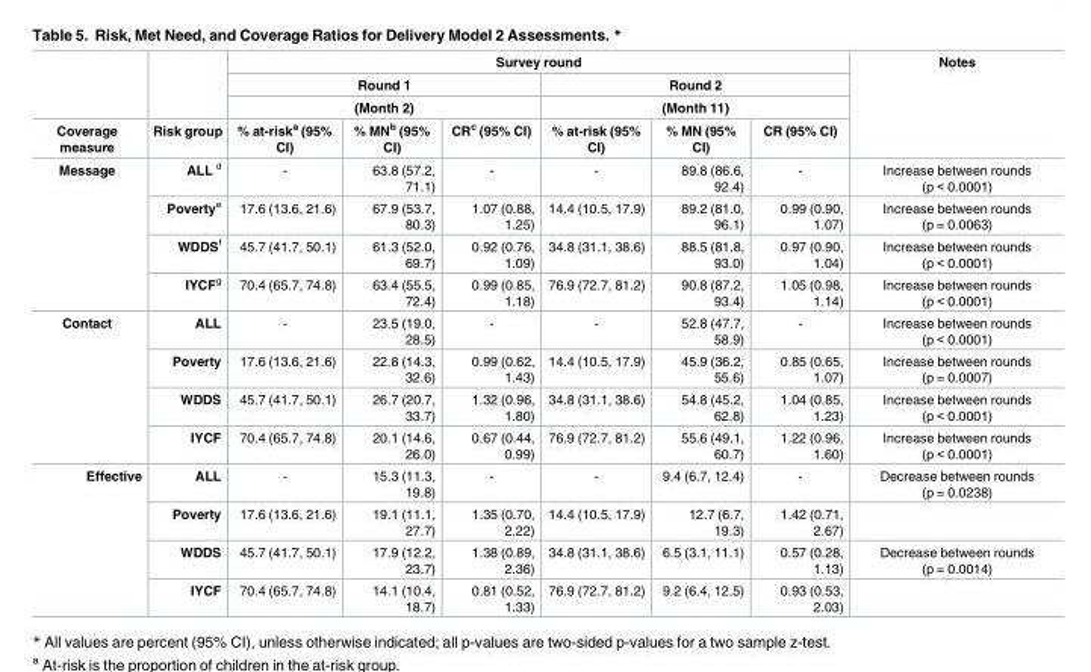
<table><thead><tr><td rowspan="4">Coverage measure</td><td rowspan="4">Risk group</td><td colspan="6">Survey round</td><td rowspan="4">Notes</td></tr><tr><td rowspan="2" colspan="3">Round 1 (Month 2)</td><td rowspan="2" colspan="3">Round 2 (Month 11)</td></tr><tr></tr><tr><td>% at-risk<sup>a</sup> (95% CI)</td><td>% MN<sup>b</sup> (95% CI)</td><td>CR<sup>c</sup> (95% CI)</td><td>% at-risk (95% CI)</td><td>% MN (95% CI)</td><td>CR (95% CI)</td></tr></thead><tbody><tr><td rowspan="4">Message</td><td>ALL <sup>d</sup></td><td>-</td><td>63.8 (57.2, 71.1)</td><td>-</td><td>-</td><td>89.8 (86.6, 92.4)</td><td>-</td><td>Increase between rounds (p &lt; 0.0001)</td></tr><tr><td>Poverty<sup>e</sup></td><td>17.6 (13.6, 21.6)</td><td>67.9 (53.7, 80.3)</td><td>1.07 (0.88, 1.25)</td><td>14.4 (10.5, 17.9)</td><td>89.2 (81.0, 96.1)</td><td>0.99 (0.90, 1.07)</td><td>Increase between rounds (p = 0.0063)</td></tr><tr><td>WDDS<sup>f</sup></td><td>45.7 (41.7, 50.1)</td><td>61.3 (52.0, 69.7)</td><td>0.92 (0.76, 1.09)</td><td>34.8 (31.1, 38.6)</td><td>88.5 (81.8, 93.0)</td><td>0.97 (0.90, 1.04)</td><td>Increase between rounds (p &lt; 0.0001)</td></tr><tr><td>IYCF<sup>g</sup></td><td>70.4 (65.7, 74.8)</td><td>63.4 (55.5, 72.4)</td><td>0.99 (0.85, 1.18)</td><td>76.9 (72.7, 81.2)</td><td>90.8 (87.2, 93.4)</td><td>1.05 (0.98, 1.14)</td><td>Increase between rounds (p &lt; 0.0001)</td></tr><tr><td rowspan="4">Contact</td><td>ALL</td><td>-</td><td>23.5 (19.0, 28.5)</td><td>-</td><td>-</td><td>52.8 (47.7, 58.9)</td><td>-</td><td>Increase between rounds (p &lt; 0.0001)</td></tr><tr><td>Poverty</td><td>17.6 (13.6, 21.6)</td><td>22.8 (14.3, 32.6)</td><td>0.99 (0.62, 1.43)</td><td>14.4 (10.5, 17.9)</td><td>45.9 (36.2, 55.6)</td><td>0.85 (0.65, 1.07)</td><td>Increase between rounds (p = 0.0007)</td></tr><tr><td>WDDS</td><td>45.7 (41.7, 50.1)</td><td>26.7 (20.7, 33.7)</td><td>1.32 (0.96, 1.80)</td><td>34.8 (31.1, 38.6)</td><td>54.8 (45.2, 62.8)</td><td>1.04 (0.85, 1.23)</td><td>Increase between rounds (p &lt; 0.0001)</td></tr><tr><td>IYCF</td><td>70.4 (65.7, 74.8)</td><td>20.1 (14.6, 26.0)</td><td>0.67 (0.44, 0.99)</td><td>76.9 (72.7, 81.2)</td><td>55.6 (49.1, 60.7)</td><td>1.22 (0.96, 1.60)</td><td>Increase between rounds (p &lt; 0.0001)</td></tr><tr><td rowspan="4">Effective</td><td>ALL</td><td>-</td><td>15.3 (11.3, 19.8)</td><td>-</td><td>-</td><td>9.4 (6.7, 12.4)</td><td>-</td><td>Decrease between rounds (p = 0.0238)</td></tr><tr><td>Poverty</td><td>17.6 (13.6, 21.6)</td><td>19.1 (11.1, 27.7)</td><td>1.35 (0.70, 2.22)</td><td>14.4 (10.5, 17.9)</td><td>12.7 (6.7, 19.3)</td><td>1.42 (0.71, 2.67)</td><td></td></tr><tr><td>WDDS</td><td>45.7 (41.7, 50.1)</td><td>17.9 (12.2, 23.7)</td><td>1.38 (0.89, 2.36)</td><td>34.8 (31.1, 38.6)</td><td>6.5 (3.1, 11.1)</td><td>0.57 (0.28, 1.13)</td><td>Decrease between rounds (p = 0.0014)</td></tr><tr><td>IYCF</td><td>70.4 (65.7, 74.8)</td><td>14.1 (10.4, 18.7)</td><td>0.81 (0.52, 1.33)</td><td>76.9 (72.7, 81.2)</td><td>9.2 (6.4, 12.5)</td><td>0.93 (0.53, 2.03)</td><td></td></tr></tbody></table>